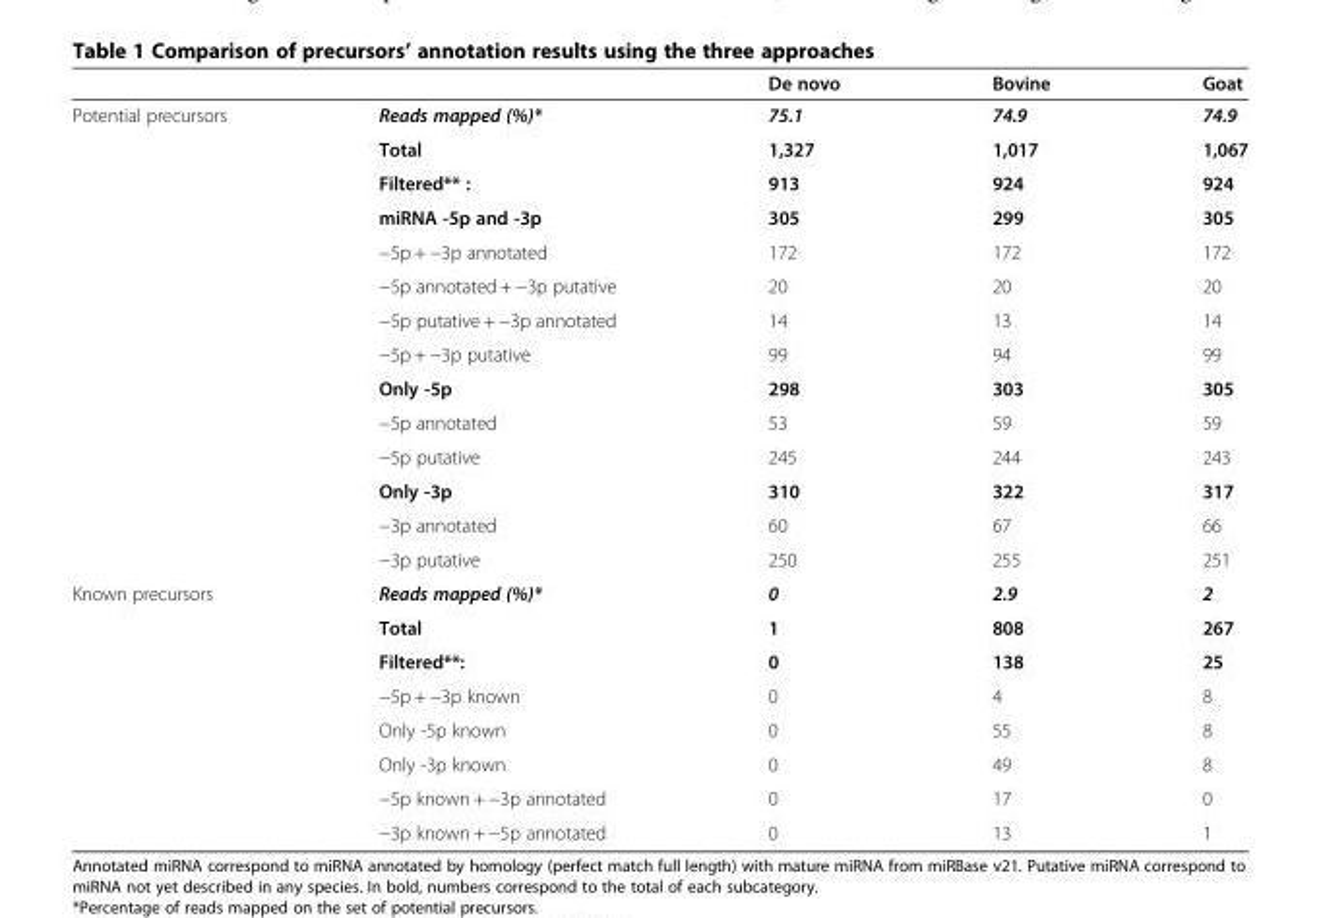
<table><thead><tr><td></td><td></td><td>De novo</td><td>Bovine</td><td>Goat</td></tr></thead><tbody><tr><td rowspan="14">Potential precursors</td><td>Reads mapped (%)*</td><td>75.1</td><td>74.9</td><td>74.9</td></tr><tr><td>Total</td><td>1,327</td><td>1,017</td><td>1,067</td></tr><tr><td>Filtered** :</td><td>913</td><td>924</td><td>924</td></tr><tr><td>miRNA -5p and -3p</td><td>305</td><td>299</td><td>305</td></tr><tr><td>−5p + −3p annotated</td><td>172</td><td>172</td><td>172</td></tr><tr><td>−5p annotated + −3p putative</td><td>20</td><td>20</td><td>20</td></tr><tr><td>−5p putative + −3p annotated</td><td>14</td><td>13</td><td>14</td></tr><tr><td>−5p + −3p putative</td><td>99</td><td>94</td><td>99</td></tr><tr><td>Only -5p</td><td>298</td><td>303</td><td>305</td></tr><tr><td>−5p annotated</td><td>53</td><td>59</td><td>59</td></tr><tr><td>−5p putative</td><td>245</td><td>244</td><td>243</td></tr><tr><td>Only -3p</td><td>310</td><td>322</td><td>317</td></tr><tr><td>−3p annotated</td><td>60</td><td>67</td><td>66</td></tr><tr><td>−3p putative</td><td>250</td><td>255</td><td>251</td></tr><tr><td rowspan="8">Known precursors</td><td>Reads mapped (%)*</td><td>0</td><td>2.9</td><td>2</td></tr><tr><td>Total</td><td>1</td><td>808</td><td>267</td></tr><tr><td>Filtered**:</td><td>0</td><td>138</td><td>25</td></tr><tr><td>−5p + −3p known</td><td>0</td><td>4</td><td>8</td></tr><tr><td>Only -5p known</td><td>0</td><td>55</td><td>8</td></tr><tr><td>Only -3p known</td><td>0</td><td>49</td><td>8</td></tr><tr><td>−5p known + −3p annotated</td><td>0</td><td>17</td><td>0</td></tr><tr><td>−3p known + −5p annotated</td><td>0</td><td>13</td><td>1</td></tr></tbody></table>